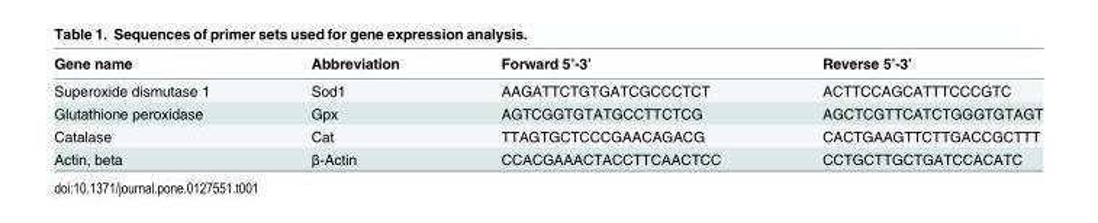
<table><thead><tr><td>Gene name</td><td>Abbreviation</td><td>Forward 5’-3’</td><td>Reverse 5’-3’</td></tr></thead><tbody><tr><td>Superoxide dismutase 1</td><td>Sod1</td><td>AAGATTCTGTGATCGCCCTCT</td><td>ACTTCCAGCATTTCCCGTC</td></tr><tr><td>Glutathione peroxidase</td><td>Gpx</td><td>AGTCGGTGTATGCCTTCTCG</td><td>AGCTCGTTCATCTGGGTGTAGT</td></tr><tr><td>Catalase</td><td>Cat</td><td>TTAGTGCTCCCGAACAGACG</td><td>CACTGAAGTTCTTGACCGCTTT</td></tr><tr><td>Actin, beta</td><td>β-Actin</td><td>CCACGAAACTACCTTCAACTCC</td><td>CCTGCTTGCTGATCCACATC</td></tr></tbody></table>